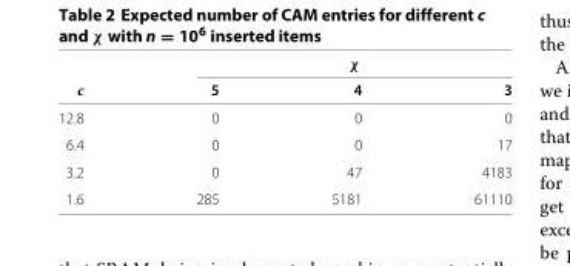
<table><thead><tr><td rowspan="2">c</td><td colspan="3">χ</td></tr><tr><td>5</td><td>4</td><td>3</td></tr></thead><tbody><tr><td>12.8</td><td>0</td><td>0</td><td>0</td></tr><tr><td>6.4</td><td>0</td><td>0</td><td>17</td></tr><tr><td>3.2</td><td>0</td><td>47</td><td>4183</td></tr><tr><td>1.6</td><td>285</td><td>5181</td><td>61110</td></tr></tbody></table>